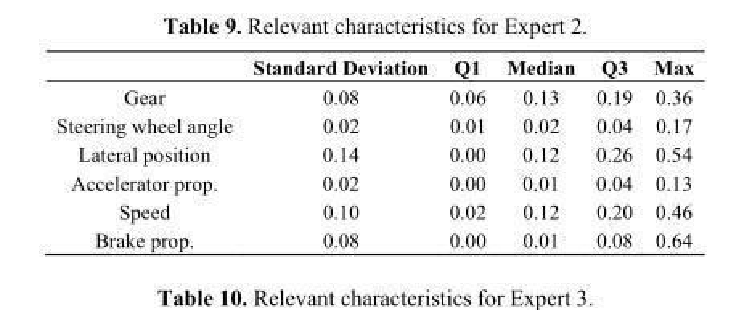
<table><thead><tr><td></td><td>Standard Deviation</td><td>Q1</td><td>Median</td><td>Q3</td><td>Max</td></tr></thead><tbody><tr><td>Gear</td><td>0.08</td><td>0.06</td><td>0.13</td><td>0.19</td><td>0.36</td></tr><tr><td>Steering wheel angle</td><td>0.02</td><td>0.01</td><td>0.02</td><td>0.04</td><td>0.17</td></tr><tr><td>Lateral position</td><td>0.14</td><td>0.00</td><td>0.12</td><td>0.26</td><td>0.54</td></tr><tr><td>Accelerator prop.</td><td>0.02</td><td>0.00</td><td>0.01</td><td>0.04</td><td>0.13</td></tr><tr><td>Speed</td><td>0.10</td><td>0.02</td><td>0.12</td><td>0.20</td><td>0.46</td></tr><tr><td>Brake prop.</td><td>0.08</td><td>0.00</td><td>0.01</td><td>0.08</td><td>0.64</td></tr></tbody></table>